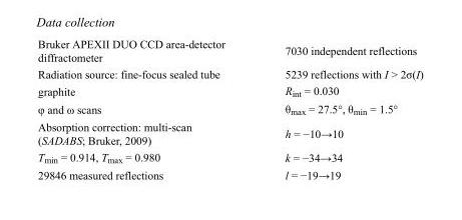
<table><tbody><tr><td>Bruker APEXII DUO CCD area-detector diffractometer</td><td>7030 independent reflections</td></tr><tr><td>Radiation source: fine-focus sealed tube</td><td>5239 reflections with I &gt; 2σ(I)</td></tr><tr><td>graphite</td><td>R<sub>int</sub> = 0.030</td></tr><tr><td>φ and ω scans</td><td>θ<sub>max</sub> = 27.5°, θ<sub>min</sub> = 1.5°</td></tr><tr><td>Absorption correction: multi-scan (SADABS; Bruker, 2009)</td><td>h = −10→10</td></tr><tr><td>T<sub>min</sub> = 0.914, T<sub>max</sub> = 0.980</td><td>k = −34→34</td></tr><tr><td>29846 measured reflections</td><td>l = −19→19</td></tr></tbody></table>